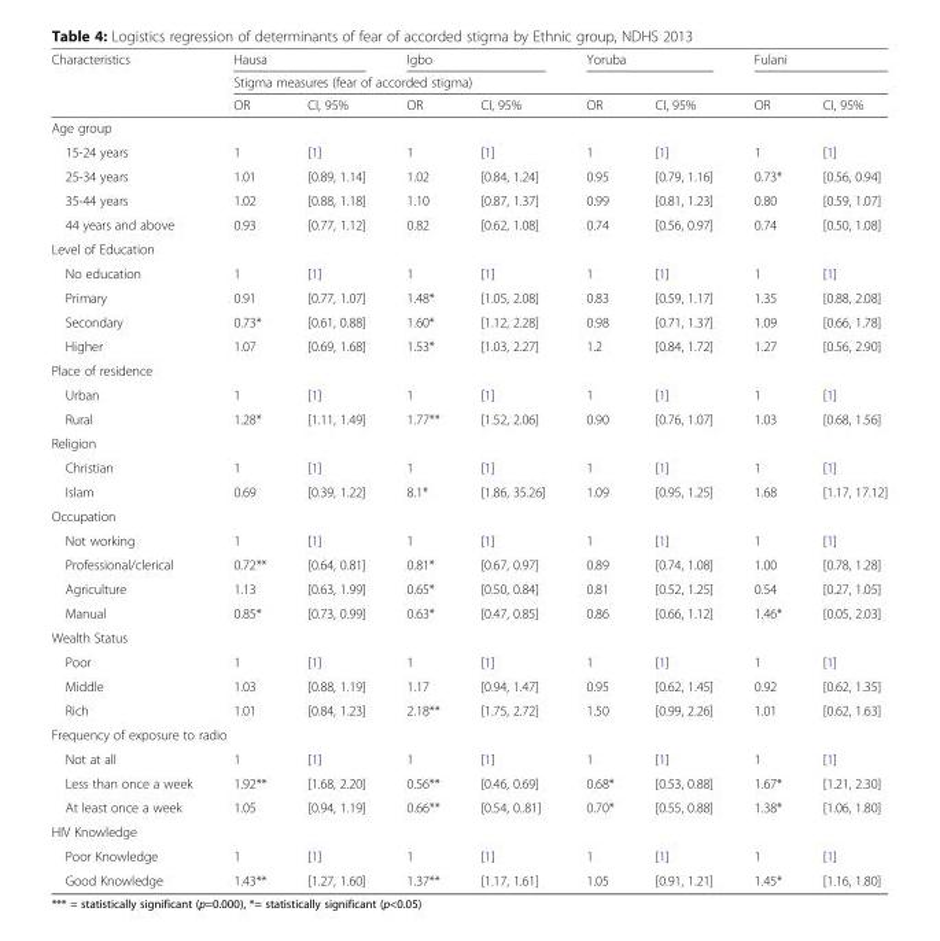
<table><thead><tr><td rowspan="3">Characteristics</td><td colspan="2">Hausa</td><td colspan="2">Igbo</td><td colspan="2">Yoruba</td><td colspan="2">Fulani</td></tr><tr><td colspan="8">Stigma measures (fear of accorded stigma)</td></tr><tr><td>OR</td><td>CI, 95%</td><td>OR</td><td>CI, 95%</td><td>OR</td><td>CI, 95%</td><td>OR</td><td>CI, 95%</td></tr></thead><tbody><tr><td colspan="9">Age group</td></tr><tr><td>15-24 years</td><td>1</td><td>[1]</td><td>1</td><td>[1]</td><td>1</td><td>[1]</td><td>1</td><td>[1]</td></tr><tr><td>25-34 years</td><td>1.01</td><td>[0.89, 1.14]</td><td>1.02</td><td>[0.84, 1.24]</td><td>0.95</td><td>[0.79, 1.16]</td><td>0.73*</td><td>[0.56, 0.94]</td></tr><tr><td>35-44 years</td><td>1.02</td><td>[0.88, 1.18]</td><td>1.10</td><td>[0.87, 1.37]</td><td>0.99</td><td>[0.81, 1.23]</td><td>0.80</td><td>[0.59, 1.07]</td></tr><tr><td>44 years and above</td><td>0.93</td><td>[0.77, 1.12]</td><td>0.82</td><td>[0.62, 1.08]</td><td>0.74</td><td>[0.56, 0.97]</td><td>0.74</td><td>[0.50, 1.08]</td></tr><tr><td colspan="9">Level of Education</td></tr><tr><td>No education</td><td>1</td><td>[1]</td><td>1</td><td>[1]</td><td>1</td><td>[1]</td><td>1</td><td>[1]</td></tr><tr><td>Primary</td><td>0.91</td><td>[0.77, 1.07]</td><td>1.48*</td><td>[1.05, 2.08]</td><td>0.83</td><td>[0.59, 1.17]</td><td>1.35</td><td>[0.88, 2.08]</td></tr><tr><td>Secondary</td><td>0.73*</td><td>[0.61, 0.88]</td><td>1.60*</td><td>[1.12, 2.28]</td><td>0.98</td><td>[0.71, 1.37]</td><td>1.09</td><td>[0.66, 1.78]</td></tr><tr><td>Higher</td><td>1.07</td><td>[0.69, 1.68]</td><td>1.53*</td><td>[1.03, 2.27]</td><td>1.2</td><td>[0.84, 1.72]</td><td>1.27</td><td>[0.56, 2.90]</td></tr><tr><td colspan="9">Place of residence</td></tr><tr><td>Urban</td><td>1</td><td>[1]</td><td>1</td><td>[1]</td><td>1</td><td>[1]</td><td>1</td><td>[1]</td></tr><tr><td>Rural</td><td>1.28*</td><td>[1.11, 1.49]</td><td>1.77**</td><td>[1.52, 2.06]</td><td>0.90</td><td>[0.76, 1.07]</td><td>1.03</td><td>[0.68, 1.56]</td></tr><tr><td colspan="9">Religion</td></tr><tr><td>Christian</td><td>1</td><td>[1]</td><td>1</td><td>[1]</td><td>1</td><td>[1]</td><td>1</td><td>[1]</td></tr><tr><td>Islam</td><td>0.69</td><td>[0.39, 1.22]</td><td>8.1*</td><td>[1.86, 35.26]</td><td>1.09</td><td>[0.95, 1.25]</td><td>1.68</td><td>[1.17, 17.12]</td></tr><tr><td colspan="9">Occupation</td></tr><tr><td>Not working</td><td>1</td><td>[1]</td><td>1</td><td>[1]</td><td>1</td><td>[1]</td><td>1</td><td>[1]</td></tr><tr><td>Professional/clerical</td><td>0.72**</td><td>[0.64, 0.81]</td><td>0.81*</td><td>[0.67, 0.97]</td><td>0.89</td><td>[0.74, 1.08]</td><td>1.00</td><td>[0.78, 1.28]</td></tr><tr><td>Agriculture</td><td>1.13</td><td>[0.63, 1.99]</td><td>0.65*</td><td>[0.50, 0.84]</td><td>0.81</td><td>[0.52, 1.25]</td><td>0.54</td><td>[0.27, 1.05]</td></tr><tr><td>Manual</td><td>0.85*</td><td>[0.73, 0.99]</td><td>0.63*</td><td>[0.47, 0.85]</td><td>0.86</td><td>[0.66, 1.12]</td><td>1.46*</td><td>[0.05, 2.03]</td></tr><tr><td colspan="9">Wealth Status</td></tr><tr><td>Poor</td><td>1</td><td>[1]</td><td>1</td><td>[1]</td><td>1</td><td>[1]</td><td>1</td><td>[1]</td></tr><tr><td>Middle</td><td>1.03</td><td>[0.88, 1.19]</td><td>1.17</td><td>[0.94, 1.47]</td><td>0.95</td><td>[0.62, 1.45]</td><td>0.92</td><td>[0.62, 1.35]</td></tr><tr><td>Rich</td><td>1.01</td><td>[0.84, 1.23]</td><td>2.18**</td><td>[1.75, 2.72]</td><td>1.50</td><td>[0.99, 2.26]</td><td>1.01</td><td>[0.62, 1.63]</td></tr><tr><td colspan="9">Frequency of exposure to radio</td></tr><tr><td>Not at all</td><td>1</td><td>[1]</td><td>1</td><td>[1]</td><td>1</td><td>[1]</td><td>1</td><td>[1]</td></tr><tr><td>Less than once a week</td><td>1.92**</td><td>[1.68, 2.20]</td><td>0.56**</td><td>[0.46, 0.69]</td><td>0.68*</td><td>[0.53, 0.88]</td><td>1.67*</td><td>[1.21, 2.30]</td></tr><tr><td>At least once a week</td><td>1.05</td><td>[0.94, 1.19]</td><td>0.66**</td><td>[0.54, 0..81]</td><td>0.70*</td><td>[0.55, 0.88]</td><td>1.38*</td><td>[1.06, 1.80]</td></tr><tr><td colspan="9">HIV Knowledge</td></tr><tr><td>Poor Knowledge</td><td>1</td><td>[1]</td><td>1</td><td>[1]</td><td>1</td><td>[1]</td><td>1</td><td>[1]</td></tr><tr><td>Good Knowledge</td><td>1.43**</td><td>[1.27, 1.60]</td><td>1.37**</td><td>[1.17, 1.61]</td><td>1.05</td><td>[0.91, 1.21]</td><td>1.45*</td><td>[1.16, 1.80]</td></tr></tbody></table>